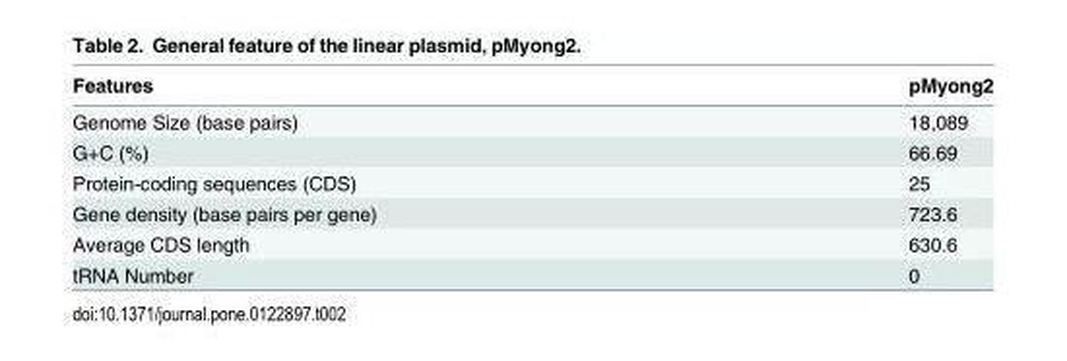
<table><thead><tr><td>Features</td><td>pMyong2</td></tr></thead><tbody><tr><td>Genome Size (base pairs)</td><td>18,089</td></tr><tr><td>G+C (%)</td><td>66.69</td></tr><tr><td>Protein-coding sequences (CDS)</td><td>25</td></tr><tr><td>Gene density (base pairs per gene)</td><td>723.6</td></tr><tr><td>Average CDS length</td><td>630.6</td></tr><tr><td>tRNA Number</td><td>0</td></tr></tbody></table>